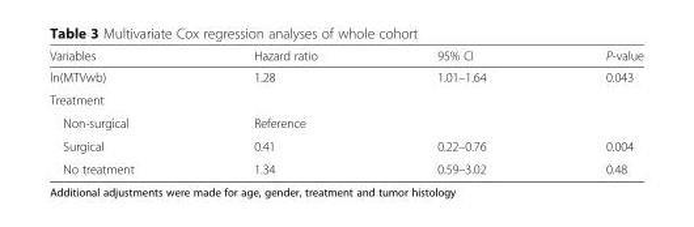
<table><thead><tr><td>Variables</td><td>Hazard ratio</td><td>95% CI</td><td>P-value</td></tr></thead><tbody><tr><td>ln(MTVwb)</td><td>1.28</td><td>1.01–1.64</td><td>0.043</td></tr><tr><td colspan="4">Treatment</td></tr><tr><td>Non-surgical</td><td>Reference</td><td></td><td></td></tr><tr><td>Surgical</td><td>0.41</td><td>0.22–0.76</td><td>0.004</td></tr><tr><td>No treatment</td><td>1.34</td><td>0.59–3.02</td><td>0.48</td></tr></tbody></table>